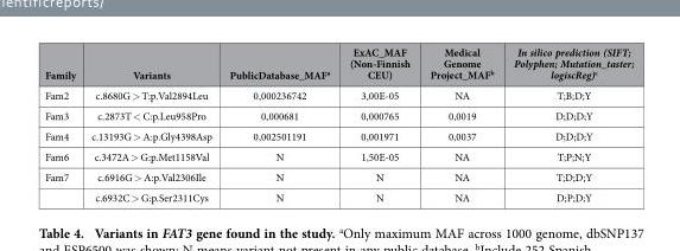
<table><thead><tr><td>Family</td><td>Variants</td><td>PublicDatabase_MAF<sup>a</sup></td><td>ExAC_MAF (Non-Finnish CEU)</td><td>Medical Genome Project_MAF<sup>b</sup></td><td>In silico prediction (SIFT; Polyphen; Mutation_taster; logiscReg)<sup>c</sup></td></tr></thead><tbody><tr><td>Fam2</td><td>c.8680G &gt; T:p.Val2894Leu</td><td>0,000236742</td><td>3,00E-05</td><td>NA</td><td>T;B;D;Y</td></tr><tr><td>Fam3</td><td>c.2873T &lt; C:p.Leu958Pro</td><td>0,000681</td><td>0,000765</td><td>0,0019</td><td>D;D;D;Y</td></tr><tr><td>Fam4</td><td>c.13193G &gt; A:p.Gly4398Asp</td><td>0,002501191</td><td>0,001971</td><td>0,0037</td><td>D;D;D;Y</td></tr><tr><td>Fam6</td><td>c.3472A &gt; G:p.Met1158Val</td><td>N</td><td>1,50E-05</td><td>NA</td><td>T;P;N;Y</td></tr><tr><td rowspan="2">Fam7</td><td>c.6916G &gt; A:p.Val2306Ile</td><td>N</td><td>N</td><td>NA</td><td>T;D;D;Y</td></tr><tr><td>c.6932C &gt; G:p.Ser2311Cys</td><td>N</td><td>N</td><td>NA</td><td>D;P;D;Y</td></tr></tbody></table>